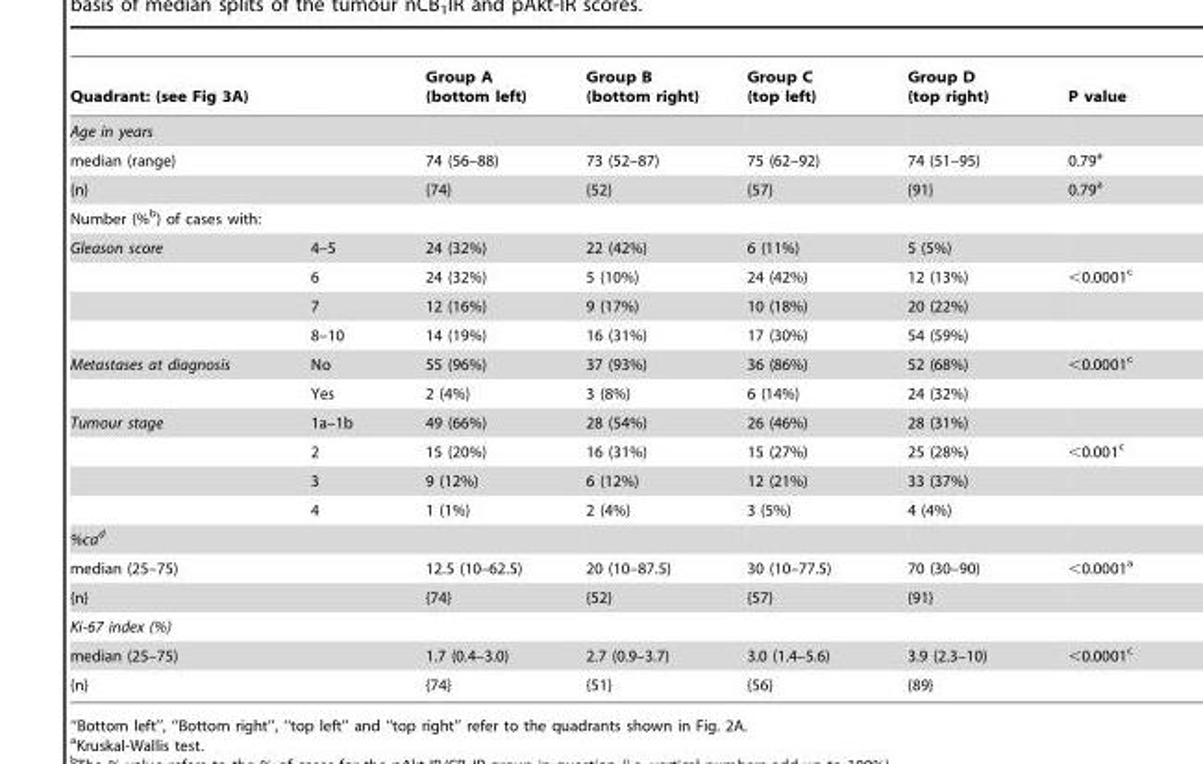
<table><thead><tr><td>Quadrant: (see Fig 3A)</td><td></td><td>Group A (bottom left)</td><td>Group B (bottom right)</td><td>Group C (top left)</td><td>Group D (top right)</td><td>P value</td></tr></thead><tbody><tr><td colspan="7">Age in years</td></tr><tr><td>median (range)</td><td></td><td>74 (56–88)</td><td>73 (52–87)</td><td>75 (62–92)</td><td>74 (51–95)</td><td>0.79<sup>a</sup></td></tr><tr><td>{n}</td><td></td><td>{74}</td><td>{52}</td><td>{57}</td><td>{91}</td><td>0.79<sup>a</sup></td></tr><tr><td colspan="7">Number (%<sup>b</sup>) of cases with:</td></tr><tr><td rowspan="4">Gleason score</td><td>4–5</td><td>24 (32%)</td><td>22 (42%)</td><td>6 (11%)</td><td>5 (5%)</td><td></td></tr><tr><td>6</td><td>24 (32%)</td><td>5 (10%)</td><td>24 (42%)</td><td>12 (13%)</td><td>&lt;0.0001<sup>c</sup></td></tr><tr><td>7</td><td>12 (16%)</td><td>9 (17%)</td><td>10 (18%)</td><td>20 (22%)</td><td></td></tr><tr><td>8–10</td><td>14 (19%)</td><td>16 (31%)</td><td>17 (30%)</td><td>54 (59%)</td><td></td></tr><tr><td rowspan="2">Metastases at diagnosis</td><td>No</td><td>55 (96%)</td><td>37 (93%)</td><td>36 (86%)</td><td>52 (68%)</td><td>&lt;0.0001<sup>c</sup></td></tr><tr><td>Yes</td><td>2 (4%)</td><td>3 (8%)</td><td>6 (14%)</td><td>24 (32%)</td><td></td></tr><tr><td rowspan="4">Tumour stage</td><td>1a–1b</td><td>49 (66%)</td><td>28 (54%)</td><td>26 (46%)</td><td>28 (31%)</td><td></td></tr><tr><td>2</td><td>15 (20%)</td><td>16 (31%)</td><td>15 (27%)</td><td>25 (28%)</td><td>&lt;0.001<sup>c</sup></td></tr><tr><td>3</td><td>9 (12%)</td><td>6 (12%)</td><td>12 (21%)</td><td>33 (37%)</td><td></td></tr><tr><td>4</td><td>1 (1%)</td><td>2 (4%)</td><td>3 (5%)</td><td>4 (4%)</td><td></td></tr><tr><td colspan="7">%cad</td></tr><tr><td>median (25–75)</td><td></td><td>12.5 (10–62.5)</td><td>20 (10–87.5)</td><td>30 (10–77.5)</td><td>70 (30–90)</td><td>&lt;0.0001<sup>a</sup></td></tr><tr><td>{n}</td><td></td><td>{74}</td><td>{52}</td><td>{57}</td><td>{91}</td><td></td></tr><tr><td colspan="7">Ki-67 index (%)</td></tr><tr><td>median (25–75)</td><td></td><td>1.7 (0.4–3.0)</td><td>2.7 (0.9–3.7)</td><td>3.0 (1.4–5.6)</td><td>3.9 (2.3–10)</td><td>&lt;0.0001<sup>c</sup></td></tr><tr><td>{n}</td><td></td><td>{74}</td><td>{51}</td><td>{56}</td><td>{89}</td><td></td></tr></tbody></table>